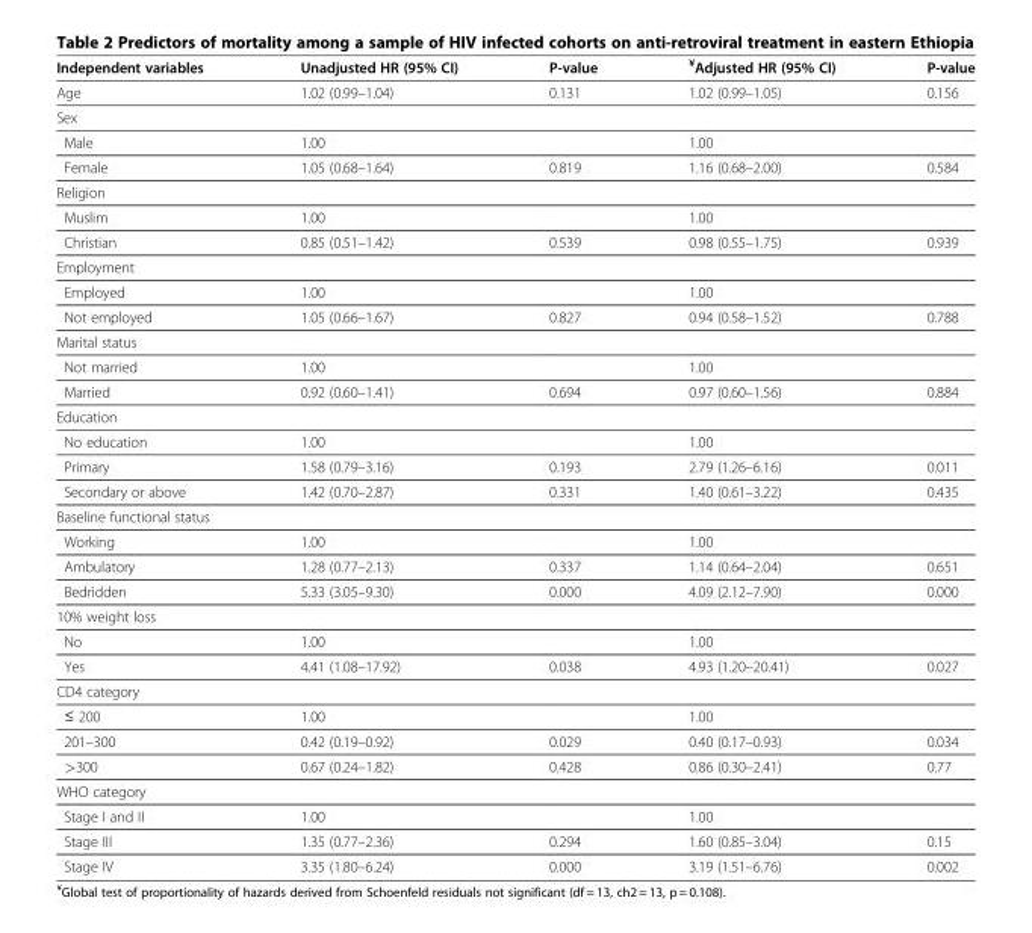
<table><thead><tr><td>Independent variables</td><td>Unadjusted HR (95% CI)</td><td>P-value</td><td><sup>¥</sup>Adjusted HR (95% CI)</td><td>P-value</td></tr></thead><tbody><tr><td>Age</td><td>1.02 (0.99–1.04)</td><td>0.131</td><td>1.02 (0.99–1.05)</td><td>0.156</td></tr><tr><td colspan="5">Sex</td></tr><tr><td>Male</td><td>1.00</td><td></td><td>1.00</td><td></td></tr><tr><td>Female</td><td>1.05 (0.68–1.64)</td><td>0.819</td><td>1.16 (0.68–2.00)</td><td>0.584</td></tr><tr><td colspan="5">Religion</td></tr><tr><td>Muslim</td><td>1.00</td><td></td><td>1.00</td><td></td></tr><tr><td>Christian</td><td>0.85 (0.51–1.42)</td><td>0.539</td><td>0.98 (0.55–1.75)</td><td>0.939</td></tr><tr><td colspan="5">Employment</td></tr><tr><td>Employed</td><td>1.00</td><td></td><td>1.00</td><td></td></tr><tr><td>Not employed</td><td>1.05 (0.66–1.67)</td><td>0.827</td><td>0.94 (0.58–1.52)</td><td>0.788</td></tr><tr><td colspan="5">Marital status</td></tr><tr><td>Not married</td><td>1.00</td><td></td><td>1.00</td><td></td></tr><tr><td>Married</td><td>0.92 (0.60–1.41)</td><td>0.694</td><td>0.97 (0.60–1.56)</td><td>0.884</td></tr><tr><td colspan="5">Education</td></tr><tr><td>No education</td><td>1.00</td><td></td><td>1.00</td><td></td></tr><tr><td>Primary</td><td>1.58 (0.79–3.16)</td><td>0.193</td><td>2.79 (1.26–6.16)</td><td>0.011</td></tr><tr><td>Secondary or above</td><td>1.42 (0.70–2.87)</td><td>0.331</td><td>1.40 (0.61–3.22)</td><td>0.435</td></tr><tr><td colspan="5">Baseline functional status</td></tr><tr><td>Working</td><td>1.00</td><td></td><td>1.00</td><td></td></tr><tr><td>Ambulatory</td><td>1.28 (0.77–2.13)</td><td>0.337</td><td>1.14 (0.64–2.04)</td><td>0.651</td></tr><tr><td>Bedridden</td><td>5.33 (3.05–9.30)</td><td>0.000</td><td>4.09 (2.12–7.90)</td><td>0.000</td></tr><tr><td colspan="5">10% weight loss</td></tr><tr><td>No</td><td>1.00</td><td></td><td>1.00</td><td></td></tr><tr><td>Yes</td><td>4.41 (1.08–17.92)</td><td>0.038</td><td>4.93 (1.20–20.41)</td><td>0.027</td></tr><tr><td colspan="5">CD4 category</td></tr><tr><td>≤ 200</td><td>1.00</td><td></td><td>1.00</td><td></td></tr><tr><td>201–300</td><td>0.42 (0.19–0.92)</td><td>0.029</td><td>0.40 (0.17–0.93)</td><td>0.034</td></tr><tr><td>&gt;300</td><td>0.67 (0.24–1.82)</td><td>0.428</td><td>0.86 (0.30–2.41)</td><td>0.77</td></tr><tr><td colspan="5">WHO category</td></tr><tr><td>Stage I and II</td><td>1.00</td><td></td><td>1.00</td><td></td></tr><tr><td>Stage III</td><td>1.35 (0.77–2.36)</td><td>0.294</td><td>1.60 (0.85–3.04)</td><td>0.15</td></tr><tr><td>Stage IV</td><td>3.35 (1.80–6.24)</td><td>0.000</td><td>3.19 (1.51–6.76)</td><td>0.002</td></tr></tbody></table>